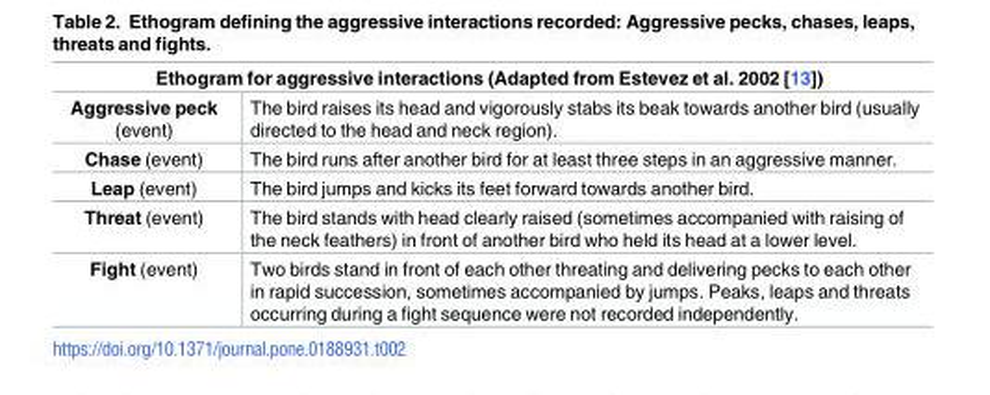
<table><thead><tr><td colspan="2">Ethogram for aggressive interactions (Adapted from Estevez et al. 2002 [13])</td></tr><tr><td>Aggressive peck (event)</td><td>The bird raises its head and vigorously stabs its beak towards another bird (usually directed to the head and neck region).</td></tr></thead><tbody><tr><td>Chase (event)</td><td>The bird runs after another bird for at least three steps in an aggressive manner.</td></tr><tr><td>Leap (event)</td><td>The bird jumps and kicks its feet forward towards another bird.</td></tr><tr><td>Threat (event)</td><td>The bird stands with head clearly raised (sometimes accompanied with raising of the neck feathers) in front of another bird who held its head at a lower level.</td></tr><tr><td>Fight (event)</td><td>Two birds stand in front of each other threating and delivering pecks to each other in rapid succession, sometimes accompanied by jumps. Peaks, leaps and threats occurring during a fight sequence were not recorded independently.</td></tr></tbody></table>